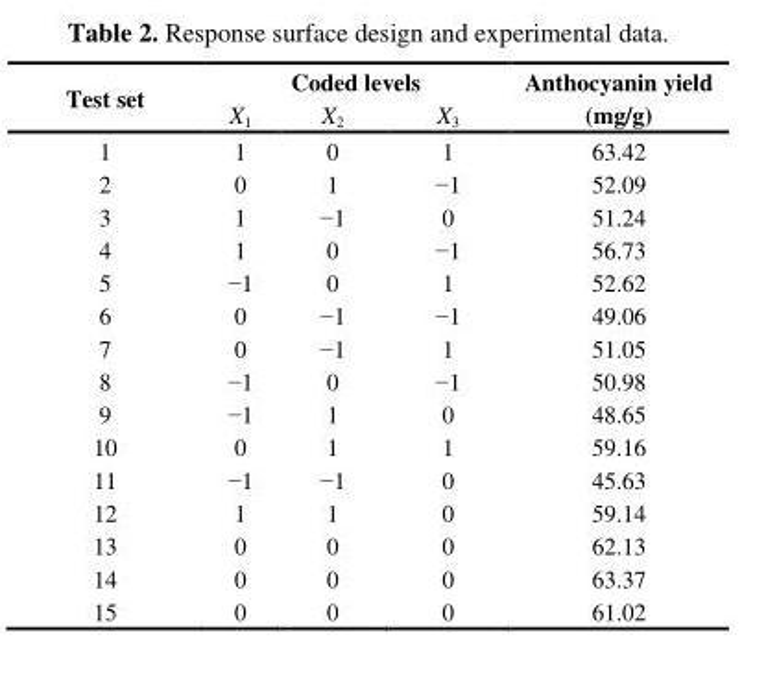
<table><thead><tr><td rowspan="2">Test set</td><td colspan="3">Coded levels</td><td rowspan="2">Anthocyanin yield (mg/g)</td></tr><tr><td>X<sub>1</sub></td><td>X<sub>2</sub></td><td>X<sub>3</sub></td></tr></thead><tbody><tr><td>1</td><td>1</td><td>0</td><td>1</td><td>63.42</td></tr><tr><td>2</td><td>0</td><td>1</td><td>−1</td><td>52.09</td></tr><tr><td>3</td><td>1</td><td>−1</td><td>0</td><td>51.24</td></tr><tr><td>4</td><td>1</td><td>0</td><td>−1</td><td>56.73</td></tr><tr><td>5</td><td>−1</td><td>0</td><td>1</td><td>52.62</td></tr><tr><td>6</td><td>0</td><td>−1</td><td>−1</td><td>49.06</td></tr><tr><td>7</td><td>0</td><td>−1</td><td>1</td><td>51.05</td></tr><tr><td>8</td><td>−1</td><td>0</td><td>−1</td><td>50.98</td></tr><tr><td>9</td><td>−1</td><td>1</td><td>0</td><td>48.65</td></tr><tr><td>10</td><td>0</td><td>1</td><td>1</td><td>59.16</td></tr><tr><td>11</td><td>−1</td><td>−1</td><td>0</td><td>45.63</td></tr><tr><td>12</td><td>1</td><td>1</td><td>0</td><td>59.14</td></tr><tr><td>13</td><td>0</td><td>0</td><td>0</td><td>62.13</td></tr><tr><td>14</td><td>0</td><td>0</td><td>0</td><td>63.37</td></tr><tr><td>15</td><td>0</td><td>0</td><td>0</td><td>61.02</td></tr></tbody></table>